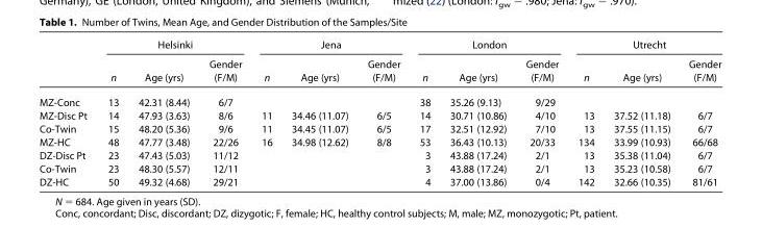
<table><thead><tr><td rowspan="2"></td><td colspan="3">Helsinki</td><td colspan="3">Jena</td><td colspan="3">London</td><td colspan="3">Utrecht</td></tr><tr><td>n</td><td>Age (yrs)</td><td>Gender (F/M)</td><td>n</td><td>Age (yrs)</td><td>Gender (F/M)</td><td>n</td><td>Age (yrs)</td><td>Gender (F/M)</td><td>n</td><td>Age (yrs)</td><td>Gender (F/M)</td></tr></thead><tbody><tr><td>MZ-Conc</td><td>13</td><td>42.31 (8.44)</td><td>6/7</td><td></td><td></td><td></td><td>38</td><td>35.26 (9.13)</td><td>9/29</td><td></td><td></td><td></td></tr><tr><td>MZ-Disc Pt</td><td>14</td><td>47.93 (3.63)</td><td>8/6</td><td>11</td><td>34.46 (11.07)</td><td>6/5</td><td>14</td><td>30.71 (10.86)</td><td>4/10</td><td>13</td><td>37.52 (11.18)</td><td>6/7</td></tr><tr><td>Co-Twin</td><td>15</td><td>48.20 (5.36)</td><td>9/6</td><td>11</td><td>34.45 (11.07)</td><td>6/5</td><td>17</td><td>32.51 (12.92)</td><td>7/10</td><td>13</td><td>37.55 (11.15)</td><td>6/7</td></tr><tr><td>MZ-HC</td><td>48</td><td>47.77 (3.48)</td><td>22/26</td><td>16</td><td>34.98 (12.62)</td><td>8/8</td><td>53</td><td>36.43 (10.13)</td><td>20/33</td><td>134</td><td>33.99 (10.93)</td><td>66/68</td></tr><tr><td>DZ-Disc Pt</td><td>23</td><td>47.43 (5.03)</td><td>11/12</td><td></td><td></td><td></td><td>3</td><td>43.88 (17.24)</td><td>2/1</td><td>13</td><td>35.38 (11.04)</td><td>6/7</td></tr><tr><td>Co-Twin</td><td>23</td><td>48.30 (5.57)</td><td>12/11</td><td></td><td></td><td></td><td>3</td><td>43.88 (17.24)</td><td>2/1</td><td>13</td><td>35.23 (10.58)</td><td>6/7</td></tr><tr><td>DZ-HC</td><td>50</td><td>49.32 (4.68)</td><td>29/21</td><td></td><td></td><td></td><td>4</td><td>37.00 (13.86)</td><td>0/4</td><td>142</td><td>32.66 (10.35)</td><td>81/61</td></tr></tbody></table>